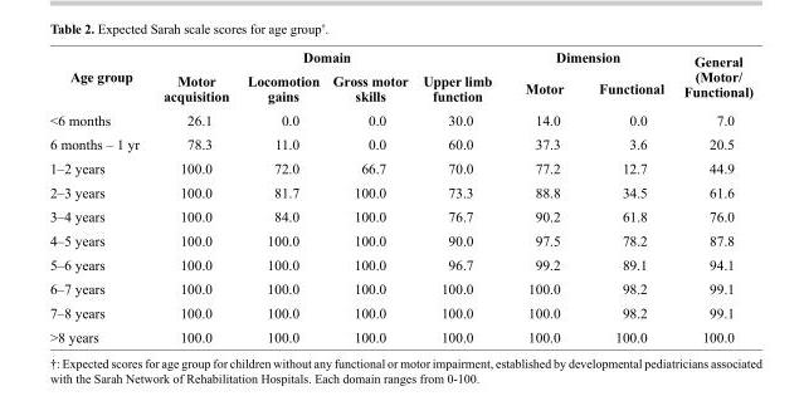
<table><thead><tr><td rowspan="2">Age group</td><td colspan="4">Domain</td><td colspan="2">Dimension</td><td rowspan="2">General (Motor/ Functional)</td></tr><tr><td>Motor acquisition</td><td>Locomotion gains</td><td>Gross motor skills</td><td>Upper limb function</td><td>Motor</td><td>Functional</td></tr></thead><tbody><tr><td>&lt;6 months</td><td>26.1</td><td>0.0</td><td>0.0</td><td>30.0</td><td>14.0</td><td>0.0</td><td>7.0</td></tr><tr><td>6 months – 1 yr</td><td>78.3</td><td>11.0</td><td>0.0</td><td>60.0</td><td>37.3</td><td>3.6</td><td>20.5</td></tr><tr><td>1–2 years</td><td>100.0</td><td>72.0</td><td>66.7</td><td>70.0</td><td>77.2</td><td>12.7</td><td>44.9</td></tr><tr><td>2–3 years</td><td>100.0</td><td>81.7</td><td>100.0</td><td>73.3</td><td>88.8</td><td>34.5</td><td>61.6</td></tr><tr><td>3–4 years</td><td>100.0</td><td>84.0</td><td>100.0</td><td>76.7</td><td>90.2</td><td>61.8</td><td>76.0</td></tr><tr><td>4–5 years</td><td>100.0</td><td>100.0</td><td>100.0</td><td>90.0</td><td>97.5</td><td>78.2</td><td>87.8</td></tr><tr><td>5–6 years</td><td>100.0</td><td>100.0</td><td>100.0</td><td>96.7</td><td>99.2</td><td>89.1</td><td>94.1</td></tr><tr><td>6–7 years</td><td>100.0</td><td>100.0</td><td>100.0</td><td>100.0</td><td>100.0</td><td>98.2</td><td>99.1</td></tr><tr><td>7–8 years</td><td>100.0</td><td>100.0</td><td>100.0</td><td>100.0</td><td>100.0</td><td>98.2</td><td>99.1</td></tr><tr><td>&gt;8 years</td><td>100.0</td><td>100.0</td><td>100.0</td><td>100.0</td><td>100.0</td><td>100.0</td><td>100.0</td></tr></tbody></table>